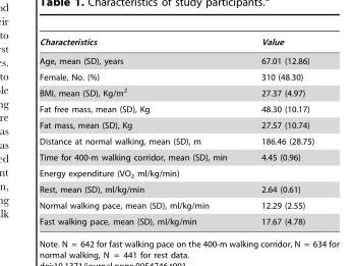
<table><thead><tr><td>Characteristics</td><td>Value</td></tr></thead><tbody><tr><td>Age, mean (SD), years</td><td>67.01 (12.86)</td></tr><tr><td>Female, No. (%)</td><td>310 (48.30)</td></tr><tr><td>BMI, mean (SD), Kg/m<sup>2</sup></td><td>27.37 (4.97)</td></tr><tr><td>Fat free mass, mean (SD), Kg</td><td>48.30 (10.17)</td></tr><tr><td>Fat mass, mean (SD), Kg</td><td>27.57 (10.74)</td></tr><tr><td>Distance at normal walking, mean (SD), m</td><td>186.46 (28.75)</td></tr><tr><td>Time for 400-m walking corridor, mean (SD), min</td><td>4.45 (0.96)</td></tr><tr><td colspan="2">Energy expenditure (VO<sub>2</sub> ml/kg/min)</td></tr><tr><td>Rest, mean (SD), ml/kg/min</td><td>2.64 (0.61)</td></tr><tr><td>Normal walking pace, mean (SD), ml/kg/min</td><td>12.29 (2.55)</td></tr><tr><td>Fast walking pace, mean (SD), ml/kg/min</td><td>17.67 (4.78)</td></tr></tbody></table>